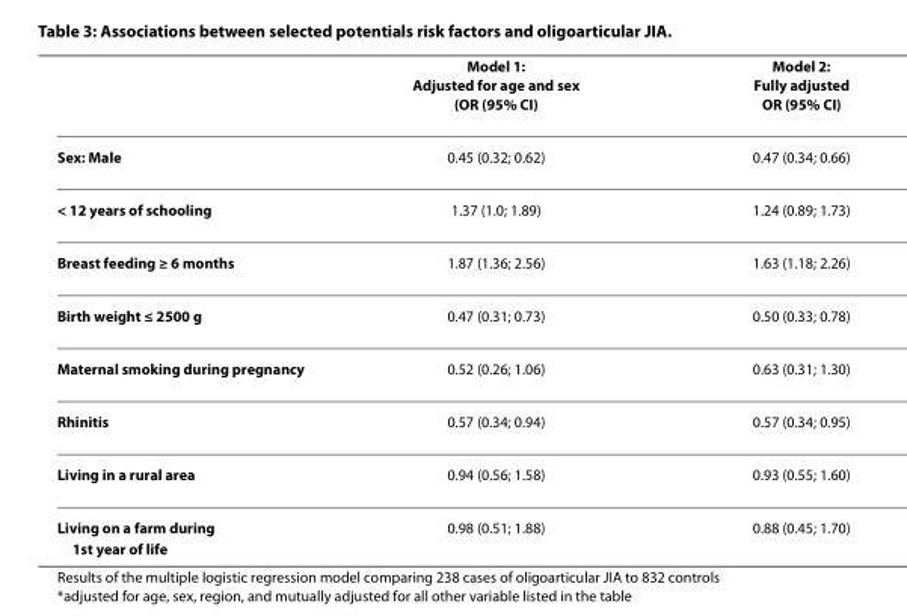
<table><thead><tr><td></td><td>Model 1: Adjusted for age and sex (OR (95% CI)</td><td>Model 2: Fully adjusted OR (95% CI)</td></tr></thead><tbody><tr><td>Sex: Male</td><td>0.45 (0.32; 0.62)</td><td>0.47 (0.34; 0.66)</td></tr><tr><td>&lt; 12 years of schooling</td><td>1.37 (1.0; 1.89)</td><td>1.24 (0.89; 1.73)</td></tr><tr><td>Breast feeding ≥ 6 months</td><td>1.87 (1.36; 2.56)</td><td>1.63 (1.18; 2.26)</td></tr><tr><td>Birth weight ≤ 2500 g</td><td>0.47 (0.31; 0.73)</td><td>0.50 (0.33; 0.78)</td></tr><tr><td>Maternal smoking during pregnancy</td><td>0.52 (0.26; 1.06)</td><td>0.63 (0.31; 1.30)</td></tr><tr><td>Rhinitis</td><td>0.57 (0.34; 0.94)</td><td>0.57 (0.34; 0.95)</td></tr><tr><td>Living in a rural area</td><td>0.94 (0.56; 1.58)</td><td>0.93 (0.55; 1.60)</td></tr><tr><td>Living on a farm during 1<sup>st</sup> year of life</td><td>0.98 (0.51; 1.88)</td><td>0.88 (0.45; 1.70)</td></tr></tbody></table>